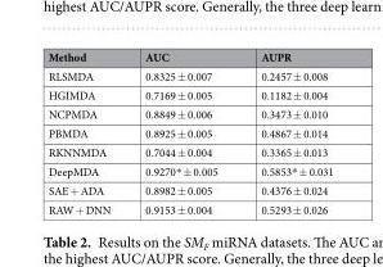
<table><thead><tr><td>Method</td><td>AUC</td><td>AUPR</td></tr></thead><tbody><tr><td>RLSMDA</td><td>0.8325 ± 0.007</td><td>0.2457 ± 0.008</td></tr><tr><td>HGIMDA</td><td>0.7169 ± 0.005</td><td>0.1182 ± 0.004</td></tr><tr><td>NCPMDA</td><td>0.8849 ± 0.006</td><td>0.3473 ± 0.010</td></tr><tr><td>PBMDA</td><td>0.8925 ± 0.005</td><td>0.4867 ± 0.014</td></tr><tr><td>RKNNMDA</td><td>0.7044 ± 0.004</td><td>0.3365 ± 0.013</td></tr><tr><td>DeepMDA</td><td>0.9270* ± 0.005</td><td>0.5853* ± 0.031</td></tr><tr><td>SAE + ADA</td><td>0.8982 ± 0.005</td><td>0.4376 ± 0.024</td></tr><tr><td>RAW + DNN</td><td>0.9153 ± 0.004</td><td>0.5293 ± 0.026</td></tr></tbody></table>